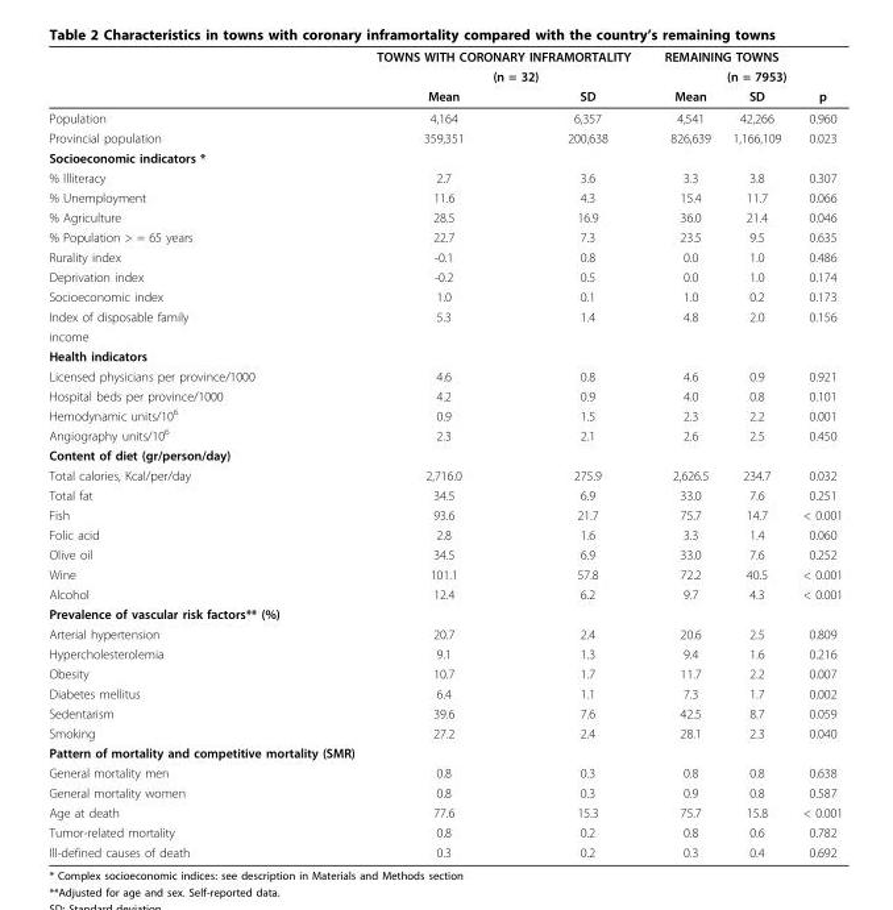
<table><thead><tr><td rowspan="3"></td><td rowspan="2" colspan="2">TOWNS WITH CORONARY INFRAMORTALITY (n = 32)</td><td rowspan="2" colspan="3">REMAINING TOWNS (n = 7953)</td></tr><tr></tr><tr><td>Mean</td><td>SD</td><td>Mean</td><td>SD</td><td>p</td></tr></thead><tbody><tr><td>Population</td><td>4,164</td><td>6,357</td><td>4,541</td><td>42,266</td><td>0.960</td></tr><tr><td>Provincial population</td><td>359,351</td><td>200,638</td><td>826,639</td><td>1,166,109</td><td>0.023</td></tr><tr><td colspan="6">Socioeconomic indicators *</td></tr><tr><td>% Illiteracy</td><td>2.7</td><td>3.6</td><td>3.3</td><td>3.8</td><td>0.307</td></tr><tr><td>% Unemployment</td><td>11.6</td><td>4.3</td><td>15.4</td><td>11.7</td><td>0.066</td></tr><tr><td>% Agriculture</td><td>28.5</td><td>16.9</td><td>36.0</td><td>21.4</td><td>0.046</td></tr><tr><td>% Population &gt; = 65 years</td><td>22.7</td><td>7.3</td><td>23.5</td><td>9.5</td><td>0.635</td></tr><tr><td>Rurality index</td><td>-0.1</td><td>0.8</td><td>0.0</td><td>1.0</td><td>0.486</td></tr><tr><td>Deprivation index</td><td>-0.2</td><td>0.5</td><td>0.0</td><td>1.0</td><td>0.174</td></tr><tr><td>Socioeconomic index</td><td>1.0</td><td>0.1</td><td>1.0</td><td>0.2</td><td>0.173</td></tr><tr><td>Index of disposable family</td><td>5.3</td><td>1.4</td><td>4.8</td><td>2.0</td><td>0.156</td></tr><tr><td colspan="6">income</td></tr><tr><td colspan="6">Health indicators</td></tr><tr><td>Licensed physicians per province/1000</td><td>4.6</td><td>0.8</td><td>4.6</td><td>0.9</td><td>0.921</td></tr><tr><td>Hospital beds per province/1000</td><td>4.2</td><td>0.9</td><td>4.0</td><td>0.8</td><td>0.101</td></tr><tr><td>Hemodynamic units/10<sup>6</sup></td><td>0.9</td><td>1.5</td><td>2.3</td><td>2.2</td><td>0.001</td></tr><tr><td>Angiography units/10<sup>6</sup></td><td>2.3</td><td>2.1</td><td>2.6</td><td>2.5</td><td>0.450</td></tr><tr><td colspan="6">Content of diet (gr/person/day)</td></tr><tr><td>Total calories, Kcal/per/day</td><td>2,716.0</td><td>275.9</td><td>2,626.5</td><td>234.7</td><td>0.032</td></tr><tr><td>Total fat</td><td>34.5</td><td>6.9</td><td>33.0</td><td>7.6</td><td>0.251</td></tr><tr><td>Fish</td><td>93.6</td><td>21.7</td><td>75.7</td><td>14.7</td><td>&lt; 0.001</td></tr><tr><td>Folic acid</td><td>2.8</td><td>1.6</td><td>3.3</td><td>1.4</td><td>0.060</td></tr><tr><td>Olive oil</td><td>34.5</td><td>6.9</td><td>33.0</td><td>7.6</td><td>0.252</td></tr><tr><td>Wine</td><td>101.1</td><td>57.8</td><td>72.2</td><td>40.5</td><td>&lt; 0.001</td></tr><tr><td>Alcohol</td><td>12.4</td><td>6.2</td><td>9.7</td><td>4.3</td><td>&lt; 0.001</td></tr><tr><td colspan="6">Prevalence of vascular risk factors** (%)</td></tr><tr><td>Arterial hypertension</td><td>20.7</td><td>2.4</td><td>20.6</td><td>2.5</td><td>0.809</td></tr><tr><td>Hypercholesterolemia</td><td>9.1</td><td>1.3</td><td>9.4</td><td>1.6</td><td>0.216</td></tr><tr><td>Obesity</td><td>10.7</td><td>1.7</td><td>11.7</td><td>2.2</td><td>0.007</td></tr><tr><td>Diabetes mellitus</td><td>6.4</td><td>1.1</td><td>7.3</td><td>1.7</td><td>0.002</td></tr><tr><td>Sedentarism</td><td>39.6</td><td>7.6</td><td>42.5</td><td>8.7</td><td>0.059</td></tr><tr><td>Smoking</td><td>27.2</td><td>2.4</td><td>28.1</td><td>2.3</td><td>0.040</td></tr><tr><td colspan="6">Pattern of mortality and competitive mortality (SMR)</td></tr><tr><td>General mortality men</td><td>0.8</td><td>0.3</td><td>0.8</td><td>0.8</td><td>0.638</td></tr><tr><td>General mortality women</td><td>0.8</td><td>0.3</td><td>0.9</td><td>0.8</td><td>0.587</td></tr><tr><td>Age at death</td><td>77.6</td><td>15.3</td><td>75.7</td><td>15.8</td><td>&lt; 0.001</td></tr><tr><td>Tumor-related mortality</td><td>0.8</td><td>0.2</td><td>0.8</td><td>0.6</td><td>0.782</td></tr><tr><td>Ill-defined causes of death</td><td>0.3</td><td>0.2</td><td>0.3</td><td>0.4</td><td>0.692</td></tr></tbody></table>